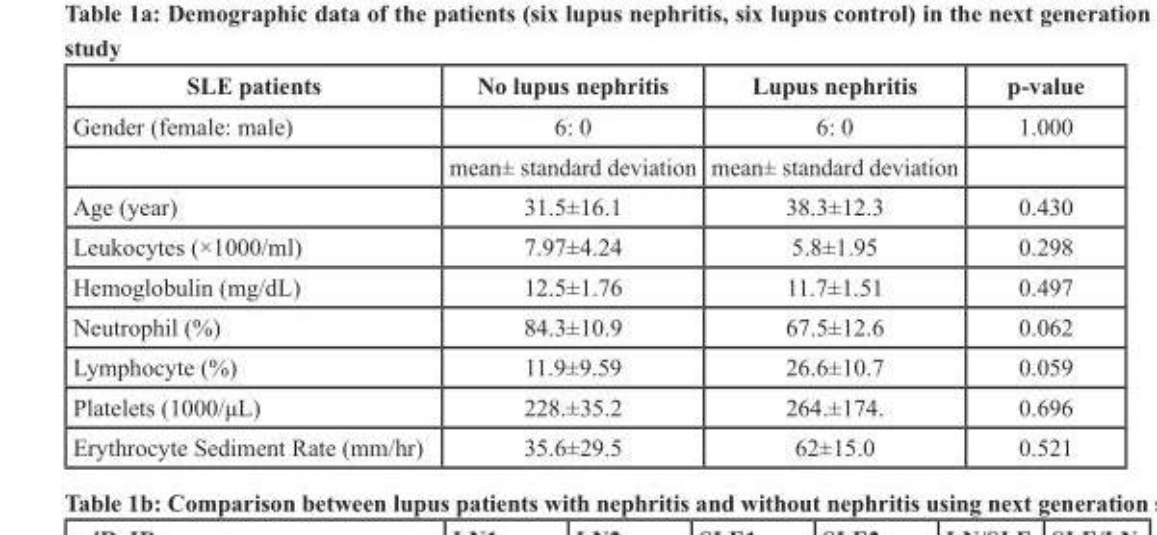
<table><thead><tr><td>SLE patients</td><td>No lupus nephritis</td><td>Lupus nephritis</td><td>p-value</td></tr></thead><tbody><tr><td rowspan="2">Gender (female: male)</td><td>6: 0</td><td>6: 0</td><td>1.000</td></tr><tr><td>mean± standard deviation</td><td>mean± standard deviation</td><td></td></tr><tr><td>Age (year)</td><td>31.5±16.1</td><td>38.3±12.3</td><td>0.430</td></tr><tr><td>Leukocytes (×1000/ml)</td><td>7.97±4.24</td><td>5.8±1.95</td><td>0.298</td></tr><tr><td>Hemoglobulin (mg/dL)</td><td>12.5±1.76</td><td>11.7±1.51</td><td>0.497</td></tr><tr><td>Neutrophil (%)</td><td>84.3±10.9</td><td>67.5±12.6</td><td>0.062</td></tr><tr><td>Lymphocyte (%)</td><td>11.9±9.59</td><td>26.6±10.7</td><td>0.059</td></tr><tr><td>Platelets (1000/μL)</td><td>228.±35.2</td><td>264.±174.</td><td>0.696</td></tr><tr><td>Erythrocyte Sediment Rate (mm/hr)</td><td>35.6±29.5</td><td>62±15.0</td><td>0.521</td></tr></tbody></table>